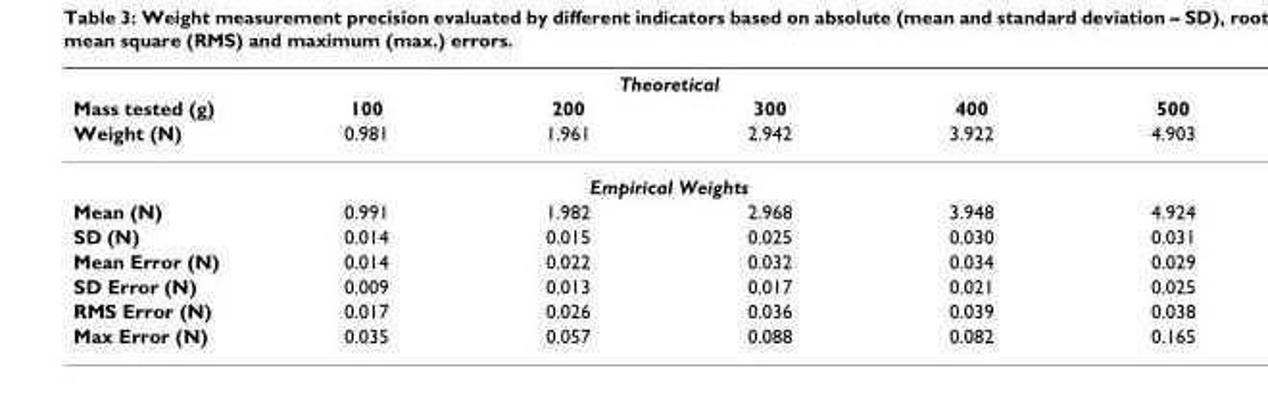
<table><thead><tr><td colspan="6">Theoretical</td></tr><tr><td rowspan="2">Mass tested (g) Weight (N)</td><td rowspan="2">100 0.981</td><td rowspan="2">200 1.961</td><td rowspan="2">300 2.942</td><td rowspan="2">400 3.922</td><td rowspan="2">500 4.903</td></tr><tr></tr></thead><tbody><tr><td colspan="6">Empirical Weights</td></tr><tr><td>Mean (N)</td><td>0.991</td><td>1.982</td><td>2.968</td><td>3.948</td><td>4.924</td></tr><tr><td>SD (N)</td><td>0.014</td><td>0.015</td><td>0.025</td><td>0.030</td><td>0.031</td></tr><tr><td>Mean Error (N)</td><td>0.014</td><td>0.022</td><td>0.032</td><td>0.034</td><td>0.029</td></tr><tr><td>SD Error (N)</td><td>0.009</td><td>0.013</td><td>0.017</td><td>0.021</td><td>0.025</td></tr><tr><td>RMS Error (N)</td><td>0.017</td><td>0.026</td><td>0.036</td><td>0.039</td><td>0.038</td></tr><tr><td>Max Error (N)</td><td>0.035</td><td>0.057</td><td>0.088</td><td>0.082</td><td>0.165</td></tr></tbody></table>